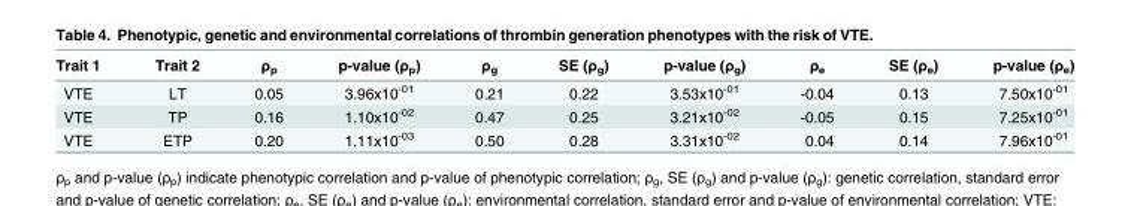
<table><thead><tr><td>Trait 1</td><td>Trait 2</td><td>ρ<sub>p</sub></td><td>p-value (ρ<sub>p</sub>)</td><td>ρ<sub>g</sub></td><td>SE (ρ<sub>g</sub>)</td><td>p-value (ρ<sub>g</sub>)</td><td>ρ<sub>e</sub></td><td>SE (ρ<sub>e</sub>)</td><td>p-value (ρ<sub>e</sub>)</td></tr></thead><tbody><tr><td>VTE</td><td>LT</td><td>0.05</td><td>3.96x10<sup>-01</sup></td><td>0.21</td><td>0.22</td><td>3.53x10<sup>-01</sup></td><td>-0.04</td><td>0.13</td><td>7.50x10<sup>-01</sup></td></tr><tr><td>VTE</td><td>TP</td><td>0.16</td><td>1.10x10<sup>-02</sup></td><td>0.47</td><td>0.25</td><td>3.21x10<sup>-02</sup></td><td>-0.05</td><td>0.15</td><td>7.25x10<sup>-01</sup></td></tr><tr><td>VTE</td><td>ETP</td><td>0.20</td><td>1.11x10<sup>-03</sup></td><td>0.50</td><td>0.28</td><td>3.31x10<sup>-02</sup></td><td>0.04</td><td>0.14</td><td>7.96x10<sup>-01</sup></td></tr></tbody></table>